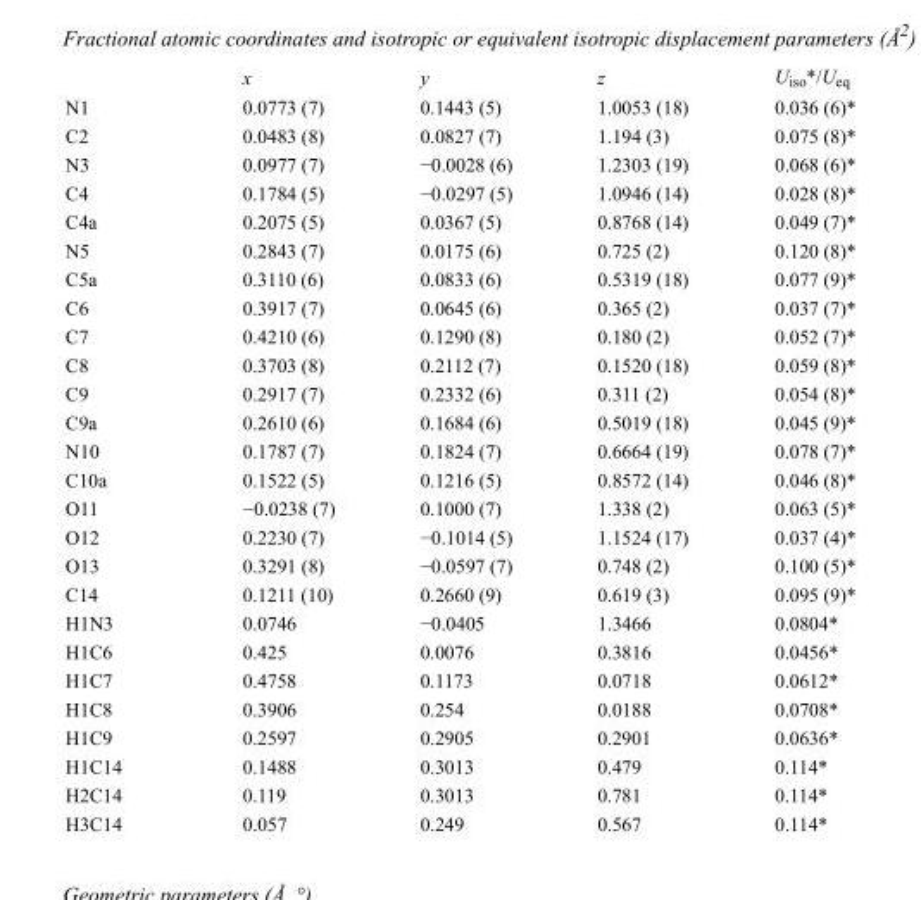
<table><thead><tr><td></td><td>x</td><td>y</td><td>z</td><td>U<sub>iso</sub>*/U<sub>eq</sub></td></tr></thead><tbody><tr><td>N1</td><td>0.0773 (7)</td><td>0.1443 (5)</td><td>1.0053 (18)</td><td>0.036 (6)*</td></tr><tr><td>C2</td><td>0.0483 (8)</td><td>0.0827 (7)</td><td>1.194 (3)</td><td>0.075 (8)*</td></tr><tr><td>N3</td><td>0.0977 (7)</td><td>−0.0028 (6)</td><td>1.2303 (19)</td><td>0.068 (6)*</td></tr><tr><td>C4</td><td>0.1784 (5)</td><td>−0.0297 (5)</td><td>1.0946 (14)</td><td>0.028 (8)*</td></tr><tr><td>C4a</td><td>0.2075 (5)</td><td>0.0367 (5)</td><td>0.8768 (14)</td><td>0.049 (7)*</td></tr><tr><td>N5</td><td>0.2843 (7)</td><td>0.0175 (6)</td><td>0.725 (2)</td><td>0.120 (8)*</td></tr><tr><td>C5a</td><td>0.3110 (6)</td><td>0.0833 (6)</td><td>0.5319 (18)</td><td>0.077 (9)*</td></tr><tr><td>C6</td><td>0.3917 (7)</td><td>0.0645 (6)</td><td>0.365 (2)</td><td>0.037 (7)*</td></tr><tr><td>C7</td><td>0.4210 (6)</td><td>0.1290 (8)</td><td>0.180 (2)</td><td>0.052 (7)*</td></tr><tr><td>C8</td><td>0.3703 (8)</td><td>0.2112 (7)</td><td>0.1520 (18)</td><td>0.059 (8)*</td></tr><tr><td>C9</td><td>0.2917 (7)</td><td>0.2332 (6)</td><td>0.311 (2)</td><td>0.054 (8)*</td></tr><tr><td>C9a</td><td>0.2610 (6)</td><td>0.1684 (6)</td><td>0.5019 (18)</td><td>0.045 (9)*</td></tr><tr><td>N10</td><td>0.1787 (7)</td><td>0.1824 (7)</td><td>0.6664 (19)</td><td>0.078 (7)*</td></tr><tr><td>C10a</td><td>0.1522 (5)</td><td>0.1216 (5)</td><td>0.8572 (14)</td><td>0.046 (8)*</td></tr><tr><td>O11</td><td>−0.0238 (7)</td><td>0.1000 (7)</td><td>1.338 (2)</td><td>0.063 (5)*</td></tr><tr><td>O12</td><td>0.2230 (7)</td><td>−0.1014 (5)</td><td>1.1524 (17)</td><td>0.037 (4)*</td></tr><tr><td>O13</td><td>0.3291 (8)</td><td>−0.0597 (7)</td><td>0.748 (2)</td><td>0.100 (5)*</td></tr><tr><td>C14</td><td>0.1211 (10)</td><td>0.2660 (9)</td><td>0.619 (3)</td><td>0.095 (9)*</td></tr><tr><td>H1N3</td><td>0.0746</td><td>−0.0405</td><td>1.3466</td><td>0.0804*</td></tr><tr><td>H1C6</td><td>0.425</td><td>0.0076</td><td>0.3816</td><td>0.0456*</td></tr><tr><td>H1C7</td><td>0.4758</td><td>0.1173</td><td>0.0718</td><td>0.0612*</td></tr><tr><td>H1C8</td><td>0.3906</td><td>0.254</td><td>0.0188</td><td>0.0708*</td></tr><tr><td>H1C9</td><td>0.2597</td><td>0.2905</td><td>0.2901</td><td>0.0636*</td></tr><tr><td>H1C14</td><td>0.1488</td><td>0.3013</td><td>0.479</td><td>0.114*</td></tr><tr><td>H2C14</td><td>0.119</td><td>0.3013</td><td>0.781</td><td>0.114*</td></tr><tr><td>H3C14</td><td>0.057</td><td>0.249</td><td>0.567</td><td>0.114*</td></tr></tbody></table>